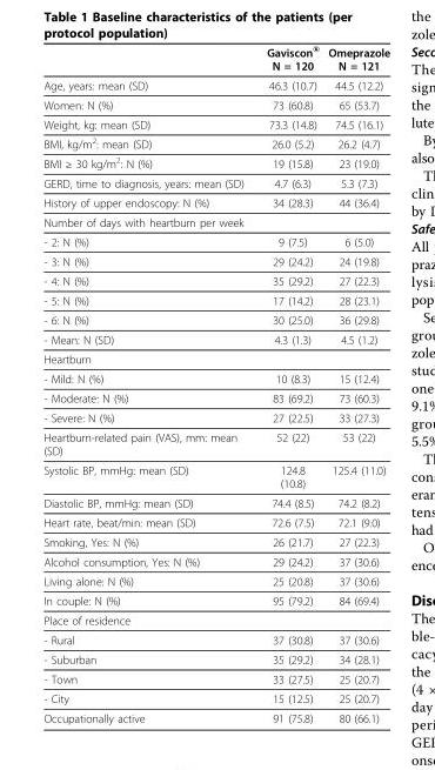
<table><thead><tr><td></td><td>Gaviscon<sup>®</sup> N = 120</td><td>Omeprazole N = 121</td></tr></thead><tbody><tr><td>Age, years: mean (SD)</td><td>46.3 (10.7)</td><td>44.5 (12.2)</td></tr><tr><td>Women: N (%)</td><td>73 (60.8)</td><td>65 (53.7)</td></tr><tr><td>Weight, kg: mean (SD)</td><td>73.3 (14.8)</td><td>74.5 (16.1)</td></tr><tr><td>BMI, kg/m<sup>2</sup>: mean (SD)</td><td>26.0 (5.2)</td><td>26.2 (4.7)</td></tr><tr><td>BMI ≥ 30 kg/m<sup>2</sup>: N (%)</td><td>19 (15.8)</td><td>23 (19.0)</td></tr><tr><td>GERD, time to diagnosis, years: mean (SD)</td><td>4.7 (6.3)</td><td>5.3 (7.3)</td></tr><tr><td>History of upper endoscopy: N (%)</td><td>34 (28.3)</td><td>44 (36.4)</td></tr><tr><td colspan="3">Number of days with heartburn per week</td></tr><tr><td>- 2: N (%)</td><td>9 (7.5)</td><td>6 (5.0)</td></tr><tr><td>- 3: N (%)</td><td>29 (24.2)</td><td>24 (19.8)</td></tr><tr><td>- 4: N (%)</td><td>35 (29.2)</td><td>27 (22.3)</td></tr><tr><td>- 5: N (%)</td><td>17 (14.2)</td><td>28 (23.1)</td></tr><tr><td>- 6: N (%)</td><td>30 (25.0)</td><td>36 (29.8)</td></tr><tr><td>- Mean: N (SD)</td><td>4.3 (1.3)</td><td>4.5 (1.2)</td></tr><tr><td colspan="3">Heartburn</td></tr><tr><td>- Mild: N (%)</td><td>10 (8.3)</td><td>15 (12.4)</td></tr><tr><td>- Moderate: N (%)</td><td>83 (69.2)</td><td>73 (60.3)</td></tr><tr><td>- Severe: N (%)</td><td>27 (22.5)</td><td>33 (27.3)</td></tr><tr><td>Heartburn-related pain (VAS), mm: mean (SD)</td><td>52 (22)</td><td>53 (22)</td></tr><tr><td>Systolic BP, mmHg: mean (SD)</td><td>124.8 (10.8)</td><td>125.4 (11.0)</td></tr><tr><td>Diastolic BP, mmHg: mean (SD)</td><td>74.4 (8.5)</td><td>74.2 (8.2)</td></tr><tr><td>Heart rate, beat/min: mean (SD)</td><td>72.6 (7.5)</td><td>72.1 (9.0)</td></tr><tr><td>Smoking, Yes: N (%)</td><td>26 (21.7)</td><td>27 (22.3)</td></tr><tr><td>Alcohol consumption, Yes: N (%)</td><td>29 (24.2)</td><td>37 (30.6)</td></tr><tr><td>Living alone: N (%)</td><td>25 (20.8)</td><td>37 (30.6)</td></tr><tr><td>In couple: N (%)</td><td>95 (79.2)</td><td>84 (69.4)</td></tr><tr><td colspan="3">Place of residence</td></tr><tr><td>- Rural</td><td>37 (30.8)</td><td>37 (30.6)</td></tr><tr><td>- Suburban</td><td>35 (29.2)</td><td>34 (28.1)</td></tr><tr><td>- Town</td><td>33 (27.5)</td><td>25 (20.7)</td></tr><tr><td>- City</td><td>15 (12.5)</td><td>25 (20.7)</td></tr><tr><td>Occupationally active</td><td>91 (75.8)</td><td>80 (66.1)</td></tr></tbody></table>